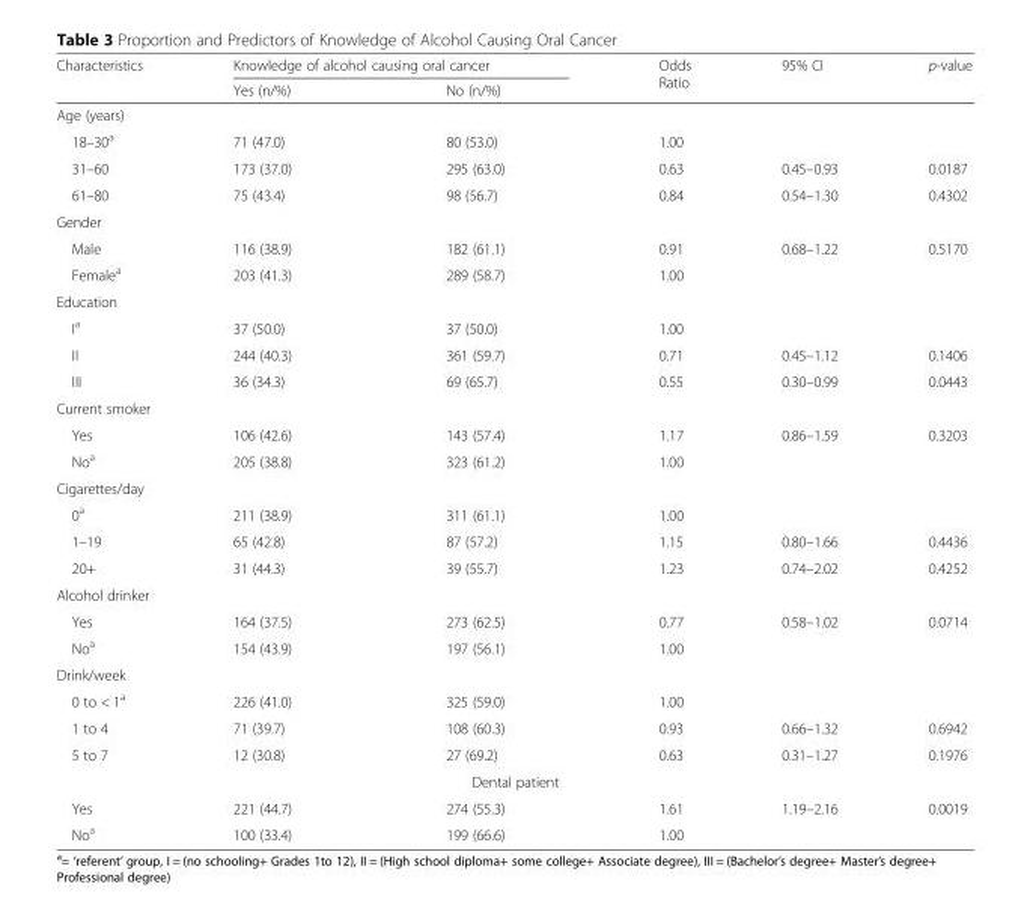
<table><thead><tr><td rowspan="2">Characteristics</td><td colspan="2">Knowledge of alcohol causing oral cancer</td><td rowspan="2">Odds Ratio</td><td rowspan="2">95% CI</td><td rowspan="2">p-value</td></tr><tr><td>Yes (n/%)</td><td>No (n/%)</td></tr></thead><tbody><tr><td colspan="6">Age (years)</td></tr><tr><td>18–30<sup>a</sup></td><td>71 (47.0)</td><td>80 (53.0)</td><td>1.00</td><td></td><td></td></tr><tr><td>31–60</td><td>173 (37.0)</td><td>295 (63.0)</td><td>0.63</td><td>0.45–0.93</td><td>0.0187</td></tr><tr><td>61–80</td><td>75 (43.4)</td><td>98 (56.7)</td><td>0.84</td><td>0.54–1.30</td><td>0.4302</td></tr><tr><td colspan="6">Gender</td></tr><tr><td>Male</td><td>116 (38.9)</td><td>182 (61.1)</td><td>0.91</td><td>0.68–1.22</td><td>0.5170</td></tr><tr><td>Female<sup>a</sup></td><td>203 (41.3)</td><td>289 (58.7)</td><td>1.00</td><td></td><td></td></tr><tr><td colspan="6">Education</td></tr><tr><td>I<sup>a</sup></td><td>37 (50.0)</td><td>37 (50.0)</td><td>1.00</td><td></td><td></td></tr><tr><td>II</td><td>244 (40.3)</td><td>361 (59.7)</td><td>0.71</td><td>0.45–1.12</td><td>0.1406</td></tr><tr><td>III</td><td>36 (34.3)</td><td>69 (65.7)</td><td>0.55</td><td>0.30–0.99</td><td>0.0443</td></tr><tr><td colspan="6">Current smoker</td></tr><tr><td>Yes</td><td>106 (42.6)</td><td>143 (57.4)</td><td>1.17</td><td>0.86–1.59</td><td>0.3203</td></tr><tr><td>No<sup>a</sup></td><td>205 (38.8)</td><td>323 (61.2)</td><td>1.00</td><td></td><td></td></tr><tr><td colspan="6">Cigarettes/day</td></tr><tr><td>0<sup>a</sup></td><td>211 (38.9)</td><td>311 (61.1)</td><td>1.00</td><td></td><td></td></tr><tr><td>1–19</td><td>65 (42.8)</td><td>87 (57.2)</td><td>1.15</td><td>0.80–1.66</td><td>0.4436</td></tr><tr><td>20+</td><td>31 (44.3)</td><td>39 (55.7)</td><td>1.23</td><td>0.74–2.02</td><td>0.4252</td></tr><tr><td colspan="6">Alcohol drinker</td></tr><tr><td>Yes</td><td>164 (37.5)</td><td>273 (62.5)</td><td>0.77</td><td>0.58–1.02</td><td>0.0714</td></tr><tr><td>No<sup>a</sup></td><td>154 (43.9)</td><td>197 (56.1)</td><td>1.00</td><td></td><td></td></tr><tr><td colspan="6">Drink/week</td></tr><tr><td>0 to &lt; 1<sup>a</sup></td><td>226 (41.0)</td><td>325 (59.0)</td><td>1.00</td><td></td><td></td></tr><tr><td>1 to 4</td><td>71 (39.7)</td><td>108 (60.3)</td><td>0.93</td><td>0.66–1.32</td><td>0.6942</td></tr><tr><td>5 to 7</td><td>12 (30.8)</td><td>27 (69.2)</td><td>0.63</td><td>0.31–1.27</td><td>0.1976</td></tr><tr><td colspan="6">Dental patient</td></tr><tr><td>Yes</td><td>221 (44.7)</td><td>274 (55.3)</td><td>1.61</td><td>1.19–2.16</td><td>0.0019</td></tr><tr><td>No<sup>a</sup></td><td>100 (33.4)</td><td>199 (66.6)</td><td>1.00</td><td></td><td></td></tr></tbody></table>